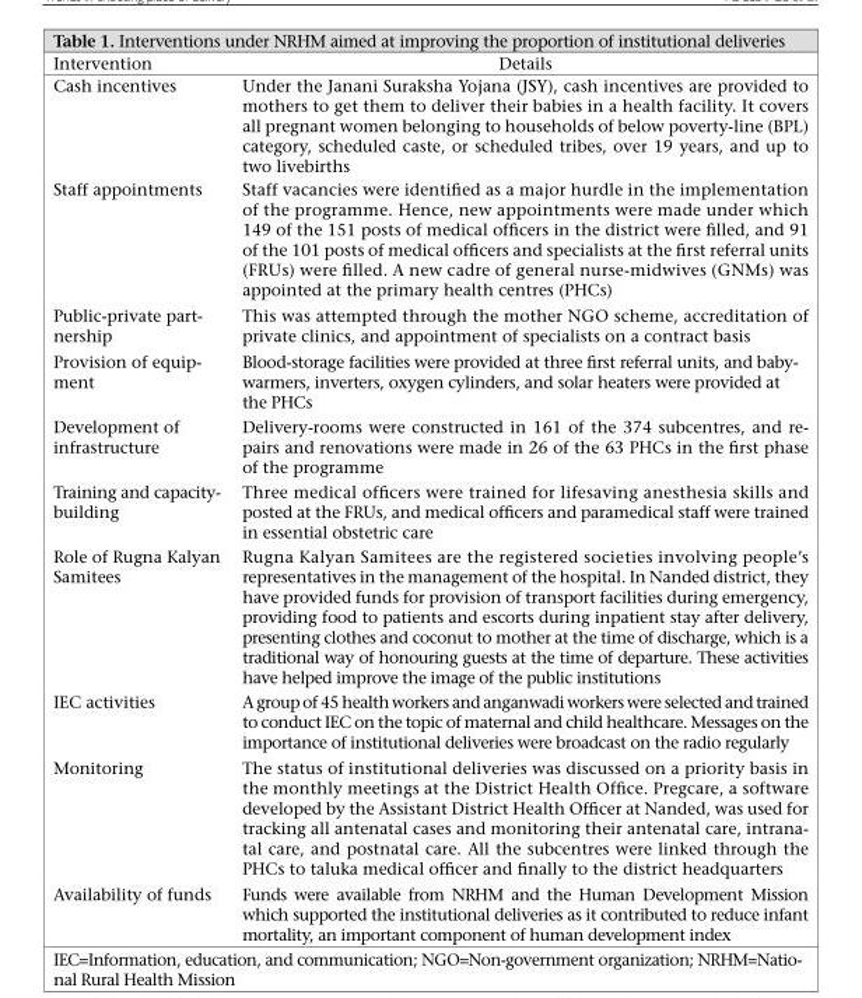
<table><thead><tr><td>Intervention</td><td>Details</td></tr></thead><tbody><tr><td>Cash incentives</td><td>Under the Janani Suraksha Yojana (JSY), cash incentives are provided to mothers to get them to deliver their babies in a health facility. It covers all pregnant women belonging to households of below poverty-line (BPL) category, scheduled caste, or scheduled tribes, over 19 years, and up to two livebirths</td></tr><tr><td>Staff appointments</td><td>Staff vacancies were identified as a major hurdle in the implementation of the programme. Hence, new appointments were made under which 149 of the 151 posts of medical officers in the district were filled, and 91 of the 101 posts of medical officers and specialists at the first referral units (FRUs) were filled. A new cadre of general nurse-midwives (GNMs) was appointed at the primary health centres (PHCs)</td></tr><tr><td>Public-private part- nership</td><td>This was attempted through the mother NGO scheme, accreditation of private clinics, and appointment of specialists on a contract basis</td></tr><tr><td>Provision of equip- ment</td><td>Blood-storage facilities were provided at three first referral units, and baby- warmers, inverters, oxygen cylinders, and solar heaters were provided at the PHCs</td></tr><tr><td>Development of infrastructure</td><td>Delivery-rooms were constructed in 161 of the 374 subcentres, and re- pairs and renovations were made in 26 of the 63 PHCs in the first phase of the programme</td></tr><tr><td>Training and capacity- building</td><td>Three medical officers were trained for lifesaving anesthesia skills and posted at the FRUs, and medical officers and paramedical staff were trained in essential obstetric care</td></tr><tr><td>Role of Rugna Kalyan Samitees</td><td>Rugna Kalyan Samitees are the registered societies involving people’s representatives in the management of the hospital. In Nanded district, they have provided funds for provision of transport facilities during emergency, providing food to patients and escorts during inpatient stay after delivery, presenting clothes and coconut to mother at the time of discharge, which is a traditional way of honouring guests at the time of departure. These activities have helped improve the image of the public institutions</td></tr><tr><td>IEC activities</td><td>A group of 45 health workers and anganwadi workers were selected and trained to conduct IEC on the topic of maternal and child healthcare. Messages on the importance of institutional deliveries were broadcast on the radio regularly</td></tr><tr><td>Monitoring</td><td>The status of institutional deliveries was discussed on a priority basis in the monthly meetings at the District Health Office. Pregcare, a software developed by the Assistant District Health Officer at Nanded, was used for tracking all antenatal cases and monitoring their antenatal care, intrana- tal care, and postnatal care. All the subcentres were linked through the PHCs to taluka medical officer and finally to the district headquarters</td></tr><tr><td>Availability of funds</td><td>Funds were available from NRHM and the Human Development Mission which supported the institutional deliveries as it contributed to reduce infant mortality, an important component of human development index</td></tr></tbody></table>